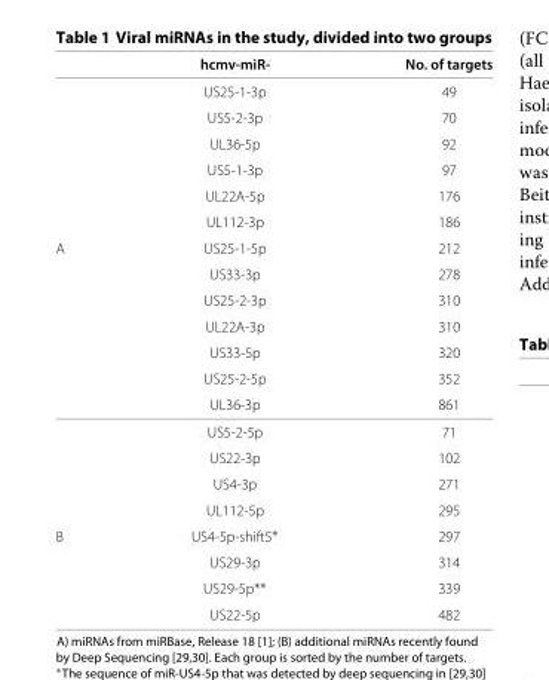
<table><thead><tr><td></td><td>hcmv-miR-</td><td>No. of targets</td></tr></thead><tbody><tr><td></td><td>US25-1-3p</td><td>49</td></tr><tr><td></td><td>US5-2-3p</td><td>70</td></tr><tr><td></td><td>UL36-5p</td><td>92</td></tr><tr><td></td><td>US5-1-3p</td><td>97</td></tr><tr><td></td><td>UL22A-5p</td><td>176</td></tr><tr><td></td><td>UL112-3p</td><td>186</td></tr><tr><td rowspan="11">A</td><td>US25-1-5p</td><td>212</td></tr><tr><td>US33-3p</td><td>278</td></tr><tr><td>US25-2-3p</td><td>310</td></tr><tr><td>UL22A-3p</td><td>310</td></tr><tr><td>US33-5p</td><td>320</td></tr><tr><td>US25-2-5p</td><td>352</td></tr><tr><td>UL36-3p</td><td>861</td></tr><tr><td>US5-2-5p</td><td>71</td></tr><tr><td>US22-3p</td><td>102</td></tr><tr><td>US4-3p</td><td>271</td></tr><tr><td>UL112-5p</td><td>295</td></tr><tr><td rowspan="4">B</td><td>US4-5p-shift5∗</td><td>297</td></tr><tr><td>US29-3p</td><td>314</td></tr><tr><td>US29-5p∗∗</td><td>339</td></tr><tr><td>US22-5p</td><td>482</td></tr></tbody></table>